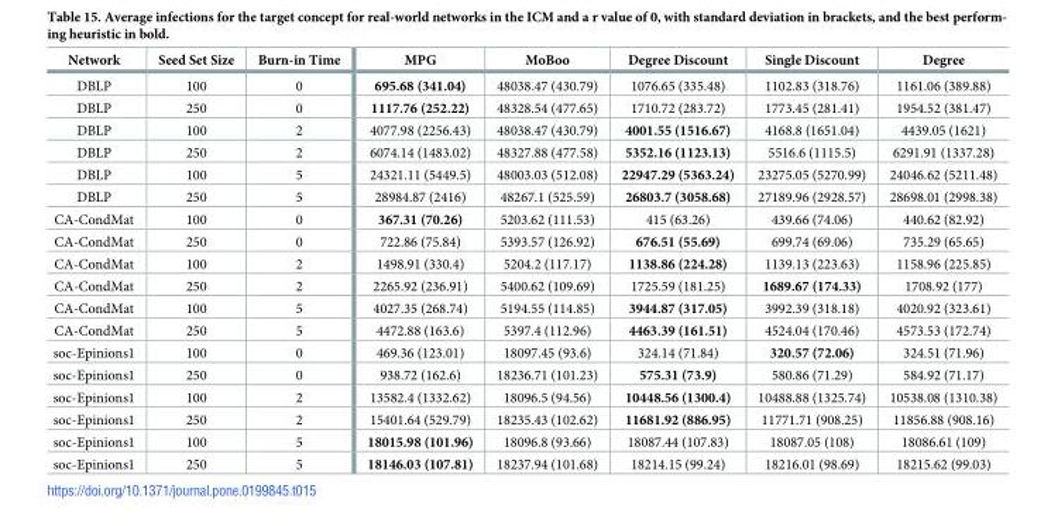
<table><thead><tr><td>Network</td><td>Seed Set Size</td><td>Burn-in Time</td><td>MPG</td><td>MoBoo</td><td>Degree Discount</td><td>Single Discount</td><td>Degree</td></tr></thead><tbody><tr><td>DBLP</td><td>100</td><td>0</td><td>695.68 (341.04)</td><td>48038.47 (430.79)</td><td>1076.65 (335.48)</td><td>1102.83 (318.76)</td><td>1161.06 (389.88)</td></tr><tr><td>DBLP</td><td>250</td><td>0</td><td>1117.76 (252.22)</td><td>48328.54 (477.65)</td><td>1710.72 (283.72)</td><td>1773.45 (281.41)</td><td>1954.52 (381.47)</td></tr><tr><td>DBLP</td><td>100</td><td>2</td><td>4077.98 (2256.43)</td><td>48038.47 (430.79)</td><td>4001.55 (1516.67)</td><td>4168.8 (1651.04)</td><td>4439.05 (1621)</td></tr><tr><td>DBLP</td><td>250</td><td>2</td><td>6074.14 (1483.02)</td><td>48327.88 (477.58)</td><td>5352.16 (1123.13)</td><td>5516.6 (1115.5)</td><td>6291.91 (1337.28)</td></tr><tr><td>DBLP</td><td>100</td><td>5</td><td>24321.11 (5449.5)</td><td>48003.03 (512.08)</td><td>22947.29 (5363.24)</td><td>23275.05 (5270.99)</td><td>24046.62 (5211.48)</td></tr><tr><td>DBLP</td><td>250</td><td>5</td><td>28984.87 (2416)</td><td>48267.1 (525.59)</td><td>26803.7 (3058.68)</td><td>27189.96 (2928.57)</td><td>28698.01 (2998.38)</td></tr><tr><td>CA-CondMat</td><td>100</td><td>0</td><td>367.31 (70.26)</td><td>5203.62 (111.53)</td><td>415 (63.26)</td><td>439.66 (74.06)</td><td>440.62 (82.92)</td></tr><tr><td>CA-CondMat</td><td>250</td><td>0</td><td>722.86 (75.84)</td><td>5393.57 (126.92)</td><td>676.51 (55.69)</td><td>699.74 (69.06)</td><td>735.29 (65.65)</td></tr><tr><td>CA-CondMat</td><td>100</td><td>2</td><td>1498.91 (330.4)</td><td>5204.2 (117.17)</td><td>1138.86 (224.28)</td><td>1139.13 (223.63)</td><td>1158.96 (225.85)</td></tr><tr><td>CA-CondMat</td><td>250</td><td>2</td><td>2265.92 (236.91)</td><td>5400.62 (109.69)</td><td>1725.59 (181.25)</td><td>1689.67 (174.33)</td><td>1708.92 (177)</td></tr><tr><td>CA-CondMat</td><td>100</td><td>5</td><td>4027.35 (268.74)</td><td>5194.55 (114.85)</td><td>3944.87 (317.05)</td><td>3992.39 (318.18)</td><td>4020.92 (323.61)</td></tr><tr><td>CA-CondMat</td><td>250</td><td>5</td><td>4472.88 (163.6)</td><td>5397.4 (112.96)</td><td>4463.39 (161.51)</td><td>4524.04 (170.46)</td><td>4573.53 (172.74)</td></tr><tr><td>soc-Epinions1</td><td>100</td><td>0</td><td>469.36 (123.01)</td><td>18097.45 (93.6)</td><td>324.14 (71.84)</td><td>320.57 (72.06)</td><td>324.51 (71.96)</td></tr><tr><td>soc-Epinions1</td><td>250</td><td>0</td><td>938.72 (162.6)</td><td>18236.71 (101.23)</td><td>575.31 (73.9)</td><td>580.86 (71.29)</td><td>584.92 (71.17)</td></tr><tr><td>soc-Epinions1</td><td>100</td><td>2</td><td>13582.4 (1332.62)</td><td>18096.5 (94.56)</td><td>10448.56 (1300.4)</td><td>10488.88 (1325.74)</td><td>10538.08 (1310.38)</td></tr><tr><td>soc-Epinions1</td><td>250</td><td>2</td><td>15401.64 (529.79)</td><td>18235.43 (102.62)</td><td>11681.92 (886.95)</td><td>11771.71 (908.25)</td><td>11856.88 (908.16)</td></tr><tr><td>soc-Epinions1</td><td>100</td><td>5</td><td>18015.98 (101.96)</td><td>18096.8 (93.66)</td><td>18087.44 (107.83)</td><td>18087.05 (108)</td><td>18086.61 (109)</td></tr><tr><td>soc-Epinions1</td><td>250</td><td>5</td><td>18146.03 (107.81)</td><td>18237.94 (101.68)</td><td>18214.15 (99.24)</td><td>18216.01 (98.69)</td><td>18215.62 (99.03)</td></tr></tbody></table>